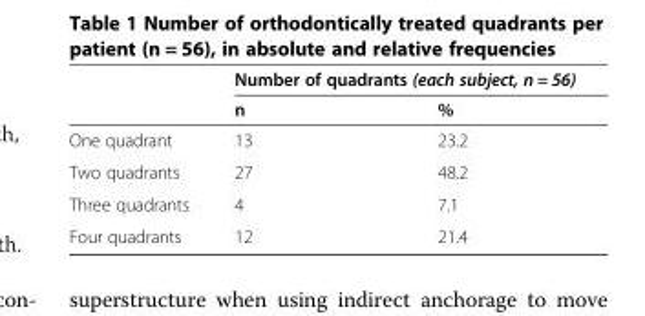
<table><thead><tr><td rowspan="2"></td><td colspan="2">Number of quadrants (each subject, n = 56)</td></tr><tr><td>n</td><td>%</td></tr></thead><tbody><tr><td>One quadrant</td><td>13</td><td>23.2</td></tr><tr><td>Two quadrants</td><td>27</td><td>48.2</td></tr><tr><td>Three quadrants</td><td>4</td><td>7.1</td></tr><tr><td>Four quadrants</td><td>12</td><td>21.4</td></tr></tbody></table>